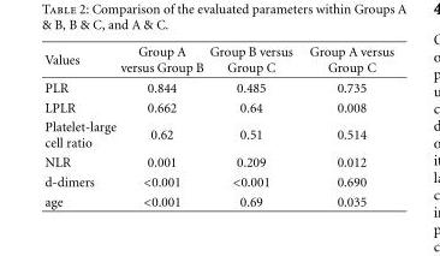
<table><thead><tr><td>Values</td><td>Group A versus Group B</td><td>Group B versus Group C</td><td>Group A versus Group C</td></tr></thead><tbody><tr><td>PLR</td><td>0.844</td><td>0.485</td><td>0.735</td></tr><tr><td>LPLR</td><td>0.662</td><td>0.64</td><td>0.008</td></tr><tr><td>Platelet-large cell ratio</td><td>0.62</td><td>0.51</td><td>0.514</td></tr><tr><td>NLR</td><td>0.001</td><td>0.209</td><td>0.012</td></tr><tr><td>d-dimers</td><td>&lt;0.001</td><td>&lt;0.001</td><td>0.690</td></tr><tr><td>age</td><td>&lt;0.001</td><td>0.69</td><td>0.035</td></tr></tbody></table>